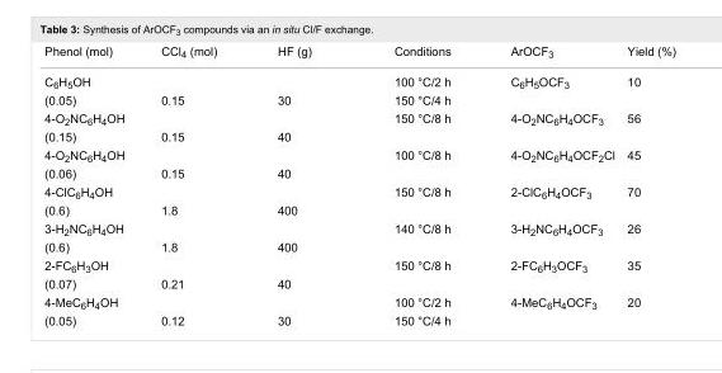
<table><tbody><tr><td>Phenol (mol)</td><td>CCl<sub>4</sub> (mol)</td><td>HF (g)</td><td>Conditions</td><td>ArOCF<sub>3</sub></td><td>Yield (%)</td></tr><tr><td>C<sub>6</sub>H<sub>5</sub>OH</td><td></td><td></td><td>100 °C/2 h</td><td>C<sub>6</sub>H<sub>5</sub>OCF<sub>3</sub></td><td>10</td></tr><tr><td>(0.05)</td><td>0.15</td><td>30</td><td>150 °C/4 h</td><td></td><td></td></tr><tr><td>4-O<sub>2</sub>NC<sub>6</sub>H<sub>4</sub>OH</td><td></td><td></td><td>150 °C/8 h</td><td>4-O<sub>2</sub>NC<sub>6</sub>H<sub>4</sub>OCF<sub>3</sub></td><td>56</td></tr><tr><td>(0.15)</td><td>0.15</td><td>40</td><td></td><td></td><td></td></tr><tr><td>4-O<sub>2</sub>NC<sub>6</sub>H<sub>4</sub>OH</td><td></td><td></td><td>100 °C/8 h</td><td>4-O<sub>2</sub>NC<sub>6</sub>H<sub>4</sub>OCF<sub>2</sub>Cl</td><td>45</td></tr><tr><td>(0.06)</td><td>0.15</td><td>40</td><td></td><td></td><td></td></tr><tr><td>4-ClC<sub>6</sub>H<sub>4</sub>OH</td><td></td><td></td><td>150 °C/8 h</td><td>2-ClC<sub>6</sub>H<sub>4</sub>OCF<sub>3</sub></td><td>70</td></tr><tr><td>(0.6)</td><td>1.8</td><td>400</td><td></td><td></td><td></td></tr><tr><td>3-H<sub>2</sub>NC<sub>6</sub>H<sub>4</sub>OH</td><td></td><td></td><td>140 °C/8 h</td><td>3-H<sub>2</sub>NC<sub>6</sub>H<sub>4</sub>OCF<sub>3</sub></td><td>26</td></tr><tr><td>(0.6)</td><td>1.8</td><td>400</td><td></td><td></td><td></td></tr><tr><td>2-FC<sub>6</sub>H<sub>3</sub>OH</td><td></td><td></td><td>150 °C/8 h</td><td>2-FC<sub>6</sub>H<sub>3</sub>OCF<sub>3</sub></td><td>35</td></tr><tr><td>(0.07)</td><td>0.21</td><td>40</td><td></td><td></td><td></td></tr><tr><td>4-MeC<sub>6</sub>H<sub>4</sub>OH</td><td></td><td></td><td>100 °C/2 h</td><td>4-MeC<sub>6</sub>H<sub>4</sub>OCF<sub>3</sub></td><td>20</td></tr><tr><td>(0.05)</td><td>0.12</td><td>30</td><td>150 °C/4 h</td><td></td><td></td></tr></tbody></table>